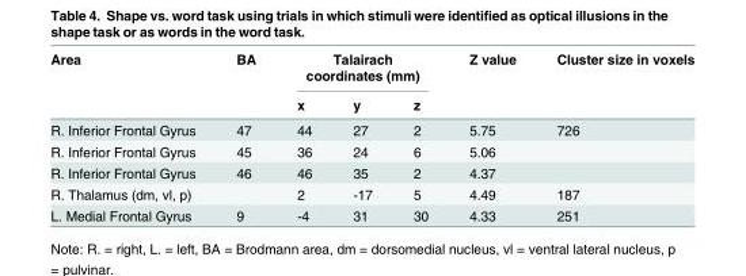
<table><thead><tr><td rowspan="2">Area</td><td rowspan="2">BA</td><td colspan="3">Talairach coordinates (mm)</td><td rowspan="2">Z value</td><td rowspan="2">Cluster size in voxels</td></tr><tr><td>x</td><td>y</td><td>z</td></tr></thead><tbody><tr><td>R. Inferior Frontal Gyrus</td><td>47</td><td>44</td><td>27</td><td>2</td><td>5.75</td><td>726</td></tr><tr><td>R. Inferior Frontal Gyrus</td><td>45</td><td>36</td><td>24</td><td>6</td><td>5.06</td><td></td></tr><tr><td>R. Inferior Frontal Gyrus</td><td>46</td><td>46</td><td>35</td><td>2</td><td>4.37</td><td></td></tr><tr><td>R. Thalamus (dm, vl, p)</td><td></td><td>2</td><td>-17</td><td>5</td><td>4.49</td><td>187</td></tr><tr><td>L. Medial Frontal Gyrus</td><td>9</td><td>-4</td><td>31</td><td>30</td><td>4.33</td><td>251</td></tr></tbody></table>